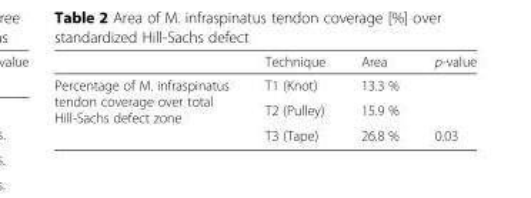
<table><thead><tr><td></td><td>Technique</td><td>Area</td><td>p-value</td></tr></thead><tbody><tr><td rowspan="3">Percentage of M. infraspinatus tendon coverage over total Hill-Sachs defect zone</td><td>T1 (Knot)</td><td>13.3 %</td><td></td></tr><tr><td>T2 (Pulley)</td><td>15.9 %</td><td></td></tr><tr><td>T3 (Tape)</td><td>26.8 %</td><td>0.03</td></tr></tbody></table>